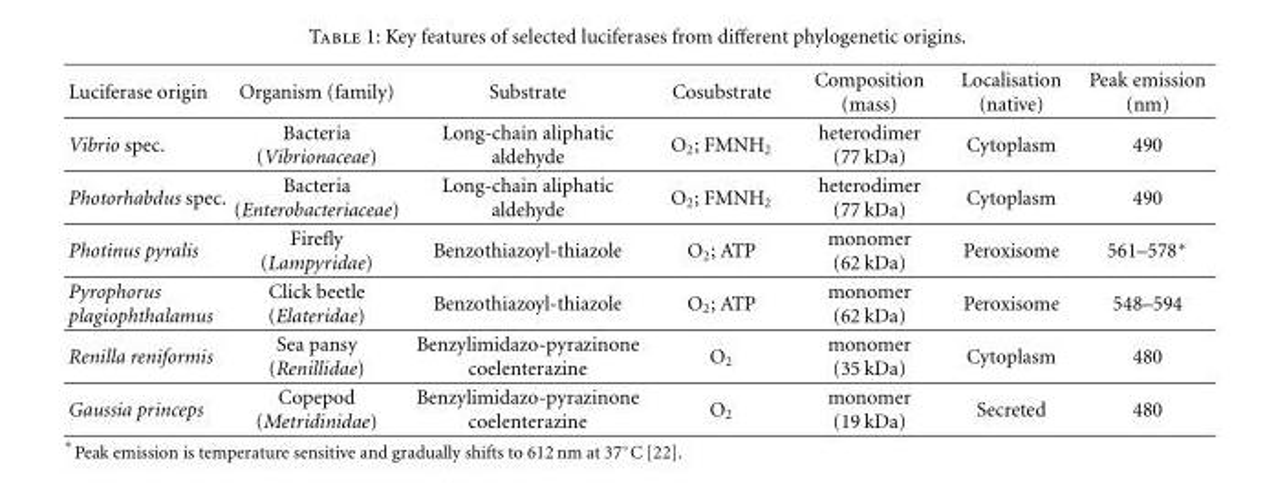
<table><thead><tr><td>Luciferase origin</td><td>Organism (family)</td><td>Substrate</td><td>Cosubstrate</td><td>Composition (mass)</td><td>Localisation (native)</td><td>Peak emission (nm)</td></tr></thead><tbody><tr><td>Vibrio spec.</td><td>Bacteria (Vibrionaceae)</td><td>Long-chain aliphatic aldehyde</td><td>O<sub>2</sub>; FMNH<sub>2</sub></td><td>heterodimer (77 kDa)</td><td>Cytoplasm</td><td>490</td></tr><tr><td>Photorhabdus spec.</td><td>Bacteria (Enterobacteriaceae)</td><td>Long-chain aliphatic aldehyde</td><td>O<sub>2</sub>; FMNH<sub>2</sub></td><td>heterodimer (77 kDa)</td><td>Cytoplasm</td><td>490</td></tr><tr><td>Photinus pyralis</td><td>Firefly (Lampyridae)</td><td>Benzothiazoyl-thiazole</td><td>O<sub>2</sub>; ATP</td><td>monomer (62 kDa)</td><td>Peroxisome</td><td>561–578∗</td></tr><tr><td>Pyrophorus plagiophthalamus</td><td>Click beetle (Elateridae)</td><td>Benzothiazoyl-thiazole</td><td>O<sub>2</sub>; ATP</td><td>monomer (62 kDa)</td><td>Peroxisome</td><td>548–594</td></tr><tr><td>Renilla reniformis</td><td>Sea pansy (Renillidae)</td><td>Benzylimidazo-pyrazinone coelenterazine</td><td>O<sub>2</sub></td><td>monomer (35 kDa)</td><td>Cytoplasm</td><td>480</td></tr><tr><td>Gaussia princeps</td><td>Copepod (Metridinidae)</td><td>Benzylimidazo-pyrazinone coelenterazine</td><td>O<sub>2</sub></td><td>monomer (19 kDa)</td><td>Secreted</td><td>480</td></tr></tbody></table>